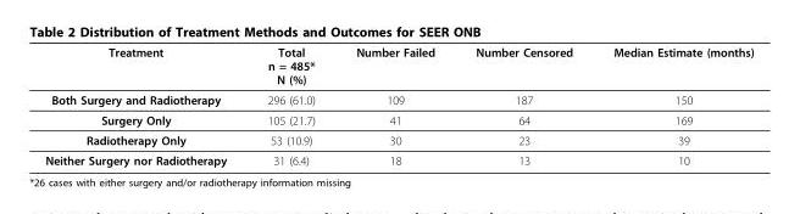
<table><thead><tr><td>Treatment</td><td>Total n = 485* N (%)</td><td>Number Failed</td><td>Number Censored</td><td>Median Estimate (months)</td></tr></thead><tbody><tr><td>Both Surgery and Radiotherapy</td><td>296 (61.0)</td><td>109</td><td>187</td><td>150</td></tr><tr><td>Surgery Only</td><td>105 (21.7)</td><td>41</td><td>64</td><td>169</td></tr><tr><td>Radiotherapy Only</td><td>53 (10.9)</td><td>30</td><td>23</td><td>39</td></tr><tr><td>Neither Surgery nor Radiotherapy</td><td>31 (6.4)</td><td>18</td><td>13</td><td>10</td></tr></tbody></table>